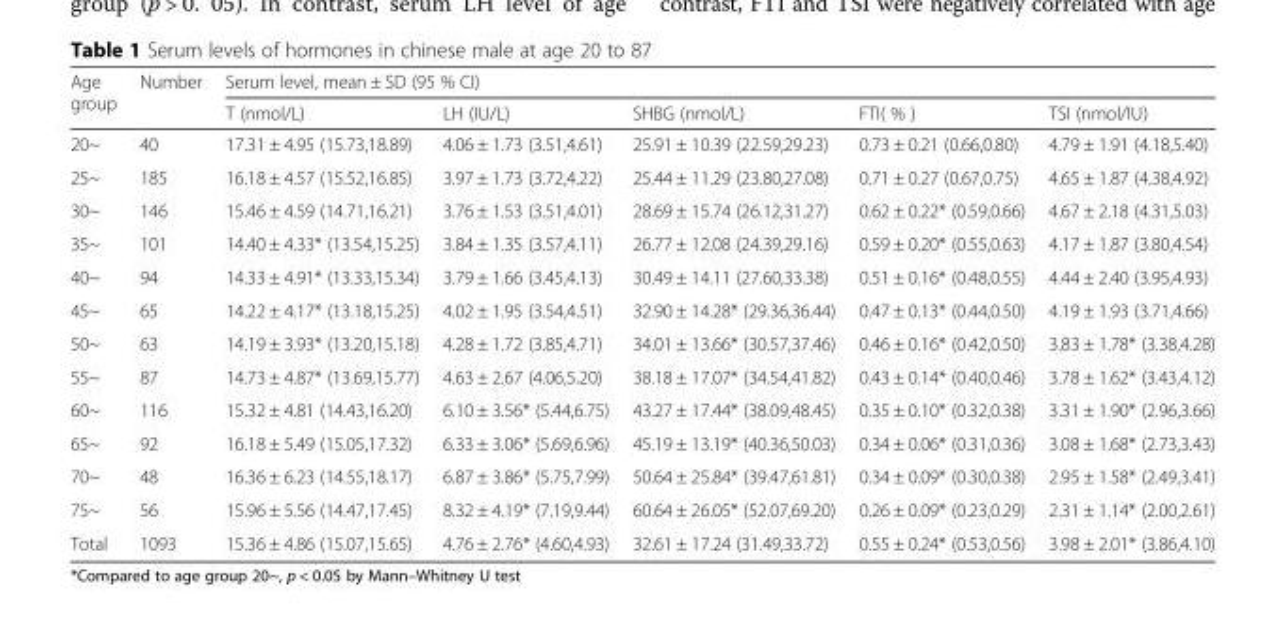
<table><thead><tr><td rowspan="2">Age group</td><td rowspan="2">Number</td><td colspan="5">Serum level, mean ± SD (95 % CI)</td></tr><tr><td>T (nmol/L)</td><td>LH (IU/L)</td><td>SHBG (nmol/L)</td><td>FTI( % )</td><td>TSI (nmol/IU)</td></tr></thead><tbody><tr><td>20~</td><td>40</td><td>17.31 ± 4.95 (15.73,18.89)</td><td>4.06 ± 1.73 (3.51,4.61)</td><td>25.91 ± 10.39 (22.59,29.23)</td><td>0.73 ± 0.21 (0.66,0.80)</td><td>4.79 ± 1.91 (4.18,5.40)</td></tr><tr><td>25~</td><td>185</td><td>16.18 ± 4.57 (15.52,16.85)</td><td>3.97 ± 1.73 (3.72,4.22)</td><td>25.44 ± 11.29 (23.80,27.08)</td><td>0.71 ± 0.27 (0.67,0.75)</td><td>4.65 ± 1.87 (4.38,4.92)</td></tr><tr><td>30~</td><td>146</td><td>15.46 ± 4.59 (14.71,16.21)</td><td>3.76 ± 1.53 (3.51,4.01)</td><td>28.69 ± 15.74 (26.12,31.27)</td><td>0.62 ± 0.22* (0.59,0.66)</td><td>4.67 ± 2.18 (4.31,5.03)</td></tr><tr><td>35~</td><td>101</td><td>14.40 ± 4.33* (13.54,15.25)</td><td>3.84 ± 1.35 (3.57,4.11)</td><td>26.77 ± 12.08 (24.39,29.16)</td><td>0.59 ± 0.20* (0.55,0.63)</td><td>4.17 ± 1.87 (3.80,4.54)</td></tr><tr><td>40~</td><td>94</td><td>14.33 ± 4.91* (13.33,15.34)</td><td>3.79 ± 1.66 (3.45,4.13)</td><td>30.49 ± 14.11 (27.60,33.38)</td><td>0.51 ± 0.16* (0.48,0.55)</td><td>4.44 ± 2.40 (3.95,4.93)</td></tr><tr><td>45~</td><td>65</td><td>14.22 ± 4.17* (13.18,15.25)</td><td>4.02 ± 1.95 (3.54,4.51)</td><td>32.90 ± 14.28* (29.36,36.44)</td><td>0.47 ± 0.13* (0.44,0.50)</td><td>4.19 ± 1.93 (3.71,4.66)</td></tr><tr><td>50~</td><td>63</td><td>14.19 ± 3.93* (13.20,15.18)</td><td>4.28 ± 1.72 (3.85,4.71)</td><td>34.01 ± 13.66* (30.57,37.46)</td><td>0.46 ± 0.16* (0.42,0.50)</td><td>3.83 ± 1.78* (3.38,4.28)</td></tr><tr><td>55~</td><td>87</td><td>14.73 ± 4.87* (13.69,15.77)</td><td>4.63 ± 2.67 (4.06,5.20)</td><td>38.18 ± 17.07* (34.54,41.82)</td><td>0.43 ± 0.14* (0.40,0.46)</td><td>3.78 ± 1.62* (3.43,4.12)</td></tr><tr><td>60~</td><td>116</td><td>15.32 ± 4.81 (14.43,16.20)</td><td>6.10 ± 3.56* (5.44,6.75)</td><td>43.27 ± 17.44* (38.09,48.45)</td><td>0.35 ± 0.10* (0.32,0.38)</td><td>3.31 ± 1.90* (2.96,3.66)</td></tr><tr><td>65~</td><td>92</td><td>16.18 ± 5.49 (15.05,17.32)</td><td>6.33 ± 3.06* (5.69,6.96)</td><td>45.19 ± 13.19* (40.36,50.03)</td><td>0.34 ± 0.06* (0.31,0.36)</td><td>3.08 ± 1.68* (2.73,3.43)</td></tr><tr><td>70~</td><td>48</td><td>16.36 ± 6.23 (14.55,18.17)</td><td>6.87 ± 3.86* (5.75,7.99)</td><td>50.64 ± 25.84* (39.47,61.81)</td><td>0.34 ± 0.09* (0.30,0.38)</td><td>2.95 ± 1.58* (2.49,3.41)</td></tr><tr><td>75~</td><td>56</td><td>15.96 ± 5.56 (14.47,17.45)</td><td>8.32 ± 4.19* (7.19,9.44)</td><td>60.64 ± 26.05* (52.07,69.20)</td><td>0.26 ± 0.09* (0.23,0.29)</td><td>2.31 ± 1.14* (2.00,2.61)</td></tr><tr><td>Total</td><td>1093</td><td>15.36 ± 4.86 (15.07,15.65)</td><td>4.76 ± 2.76* (4.60,4.93)</td><td>32.61 ± 17.24 (31.49,33.72)</td><td>0.55 ± 0.24* (0.53,0.56)</td><td>3.98 ± 2.01* (3.86,4.10)</td></tr></tbody></table>